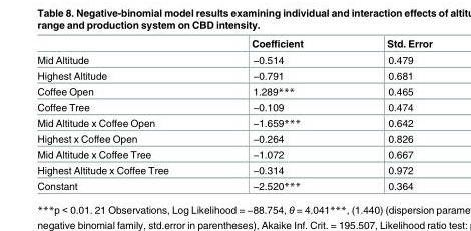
<table><thead><tr><td></td><td>Coefficient</td><td>Std. Error</td></tr></thead><tbody><tr><td>Mid Altitude</td><td>−0.514</td><td>0.479</td></tr><tr><td>Highest Altitude</td><td>−0.791</td><td>0.681</td></tr><tr><td>Coffee Open</td><td>1.289***</td><td>0.465</td></tr><tr><td>Coffee Tree</td><td>−0.109</td><td>0.474</td></tr><tr><td>Mid Altitude x Coffee Open</td><td>−1.659***</td><td>0.642</td></tr><tr><td>Highest x Coffee Open</td><td>−0.264</td><td>0.826</td></tr><tr><td>Mid Altitude x Coffee Tree</td><td>−1.072</td><td>0.667</td></tr><tr><td>Highest Altitude x Coffee Tree</td><td>−0.314</td><td>0.972</td></tr><tr><td>Constant</td><td>−2.520***</td><td>0.364</td></tr></tbody></table>